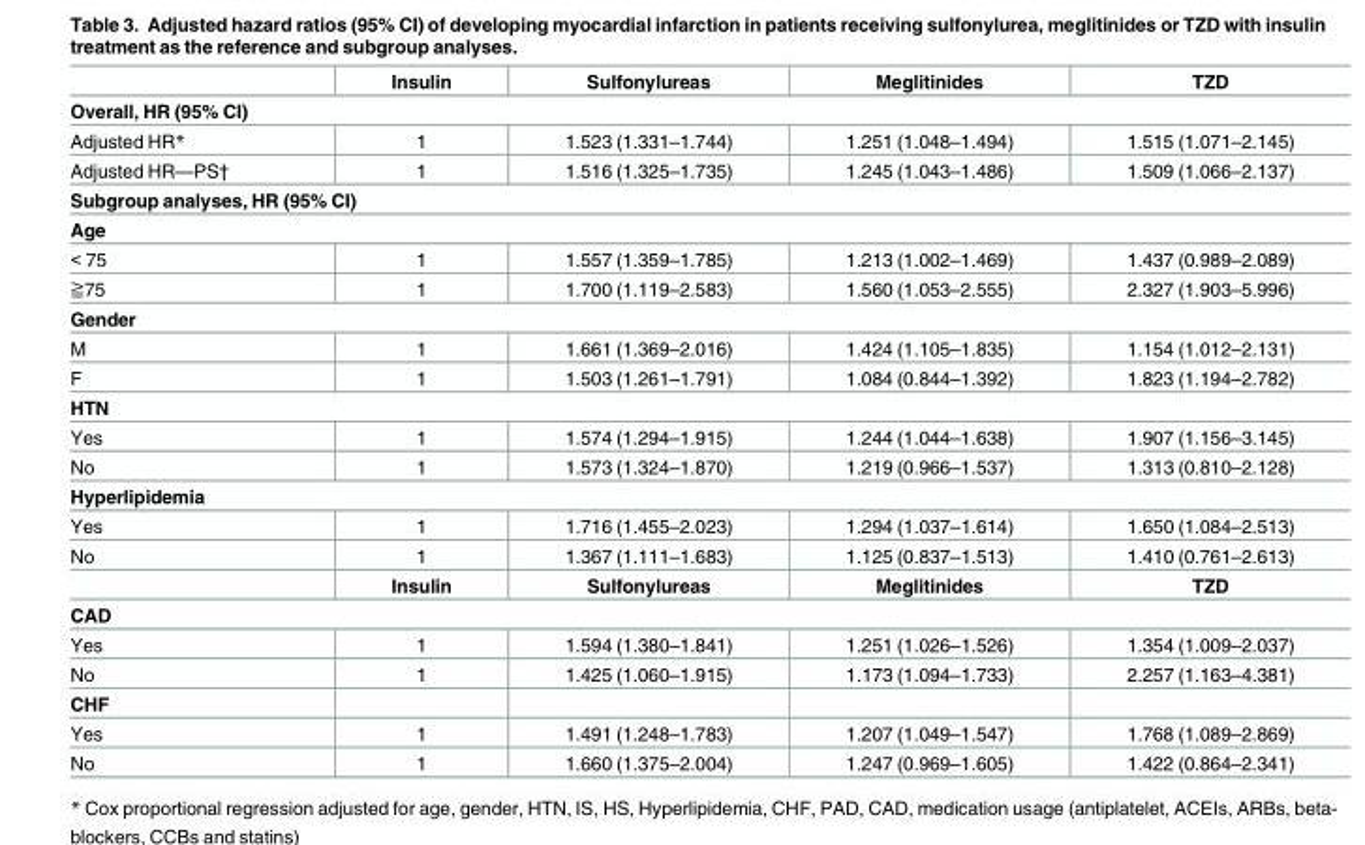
<table><thead><tr><td></td><td>Insulin</td><td>Sulfonylureas</td><td>Meglitinides</td><td>TZD</td></tr></thead><tbody><tr><td colspan="5">Overall, HR (95% CI)</td></tr><tr><td>Adjusted HR*</td><td>1</td><td>1.523 (1.331–1.744)</td><td>1.251 (1.048–1.494)</td><td>1.515 (1.071–2.145)</td></tr><tr><td>Adjusted HR—PS†</td><td>1</td><td>1.516 (1.325–1.735)</td><td>1.245 (1.043–1.486)</td><td>1.509 (1.066–2.137)</td></tr><tr><td colspan="5">Subgroup analyses, HR (95% CI)</td></tr><tr><td colspan="5">Age</td></tr><tr><td>&lt; 75</td><td>1</td><td>1.557 (1.359–1.785)</td><td>1.213 (1.002–1.469)</td><td>1.437 (0.989–2.089)</td></tr><tr><td>≧75</td><td>1</td><td>1.700 (1.119–2.583)</td><td>1.560 (1.053–2.555)</td><td>2.327 (1.903–5.996)</td></tr><tr><td colspan="5">Gender</td></tr><tr><td>M</td><td>1</td><td>1.661 (1.369–2.016)</td><td>1.424 (1.105–1.835)</td><td>1.154 (1.012–2.131)</td></tr><tr><td>F</td><td>1</td><td>1.503 (1.261–1.791)</td><td>1.084 (0.844–1.392)</td><td>1.823 (1.194–2.782)</td></tr><tr><td colspan="5">HTN</td></tr><tr><td>Yes</td><td>1</td><td>1.574 (1.294–1.915)</td><td>1.244 (1.044–1.638)</td><td>1.907 (1.156–3.145)</td></tr><tr><td>No</td><td>1</td><td>1.573 (1.324–1.870)</td><td>1.219 (0.966–1.537)</td><td>1.313 (0.810–2.128)</td></tr><tr><td colspan="5">Hyperlipidemia</td></tr><tr><td>Yes</td><td>1</td><td>1.716 (1.455–2.023)</td><td>1.294 (1.037–1.614)</td><td>1.650 (1.084–2.513)</td></tr><tr><td rowspan="2">No</td><td>1</td><td>1.367 (1.111–1.683)</td><td>1.125 (0.837–1.513)</td><td>1.410 (0.761–2.613)</td></tr><tr><td>Insulin</td><td>Sulfonylureas</td><td>Meglitinides</td><td>TZD</td></tr><tr><td colspan="5">CAD</td></tr><tr><td>Yes</td><td>1</td><td>1.594 (1.380–1.841)</td><td>1.251 (1.026–1.526)</td><td>1.354 (1.009–2.037)</td></tr><tr><td>No</td><td>1</td><td>1.425 (1.060–1.915)</td><td>1.173 (1.094–1.733)</td><td>2.257 (1.163–4.381)</td></tr><tr><td colspan="5">CHF</td></tr><tr><td>Yes</td><td>1</td><td>1.491 (1.248–1.783)</td><td>1.207 (1.049–1.547)</td><td>1.768 (1.089–2.869)</td></tr><tr><td>No</td><td>1</td><td>1.660 (1.375–2.004)</td><td>1.247 (0.969–1.605)</td><td>1.422 (0.864–2.341)</td></tr></tbody></table>